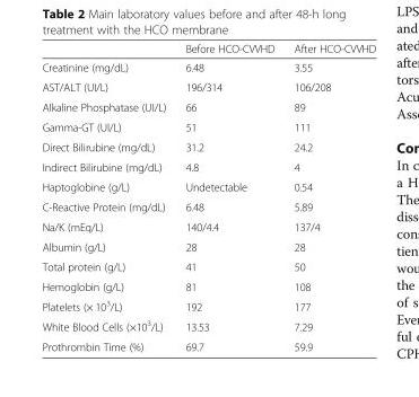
<table><thead><tr><td></td><td>Before HCO-CVVHD</td><td>After HCO-CVVHD</td></tr></thead><tbody><tr><td>Creatinine (mg/dL)</td><td>6.48</td><td>3.55</td></tr><tr><td>AST/ALT (UI/L)</td><td>196/314</td><td>106/208</td></tr><tr><td>Alkaline Phosphatase (UI/L)</td><td>66</td><td>89</td></tr><tr><td>Gamma-GT (UI/L)</td><td>51</td><td>111</td></tr><tr><td>Direct Bilirubine (mg/dL)</td><td>31.2</td><td>24.2</td></tr><tr><td>Indirect Bilirubine (mg/dL)</td><td>4.8</td><td>4</td></tr><tr><td>Haptoglobine (g/L)</td><td>Undetectable</td><td>0.54</td></tr><tr><td>C-Reactive Protein (mg/dL)</td><td>6.48</td><td>5.89</td></tr><tr><td>Na/K (mEq/L)</td><td>140/4.4</td><td>137/4</td></tr><tr><td>Albumin (g/L)</td><td>28</td><td>28</td></tr><tr><td>Total protein (g/L)</td><td>41</td><td>50</td></tr><tr><td>Hemoglobin (g/L)</td><td>81</td><td>108</td></tr><tr><td>Platelets (× 10<sup>3</sup>/L)</td><td>192</td><td>177</td></tr><tr><td>White Blood Cells (×10<sup>3</sup>/L)</td><td>13.53</td><td>7.29</td></tr><tr><td>Prothrombin Time (%)</td><td>69.7</td><td>59.9</td></tr></tbody></table>